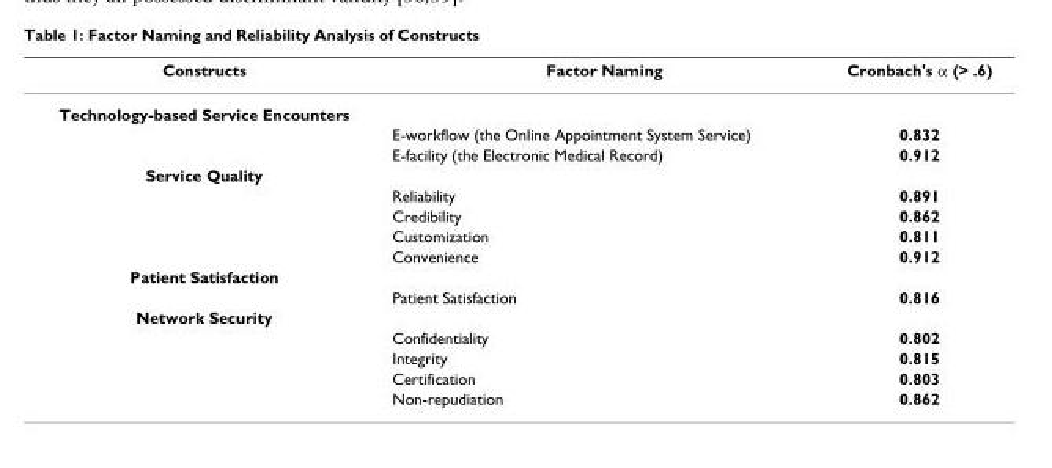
<table><thead><tr><td>Constructs</td><td>Factor Naming</td><td>Cronbach&#x27;s α (&gt; .6)</td></tr></thead><tbody><tr><td colspan="3">Technology-based Service Encounters</td></tr><tr><td></td><td>E-workflow (the Online Appointment System Service)</td><td>0.832</td></tr><tr><td></td><td>E-facility (the Electronic Medical Record)</td><td>0.912</td></tr><tr><td colspan="3">Service Quality</td></tr><tr><td></td><td>Reliability</td><td>0.891</td></tr><tr><td></td><td>Credibility</td><td>0.862</td></tr><tr><td></td><td>Customization</td><td>0.811</td></tr><tr><td></td><td>Convenience</td><td>0.912</td></tr><tr><td colspan="3">Patient Satisfaction</td></tr><tr><td></td><td>Patient Satisfaction</td><td>0.816</td></tr><tr><td colspan="3">Network Security</td></tr><tr><td></td><td>Confidentiality</td><td>0.802</td></tr><tr><td></td><td>Integrity</td><td>0.815</td></tr><tr><td></td><td>Certification</td><td>0.803</td></tr><tr><td></td><td>Non-repudiation</td><td>0.862</td></tr></tbody></table>